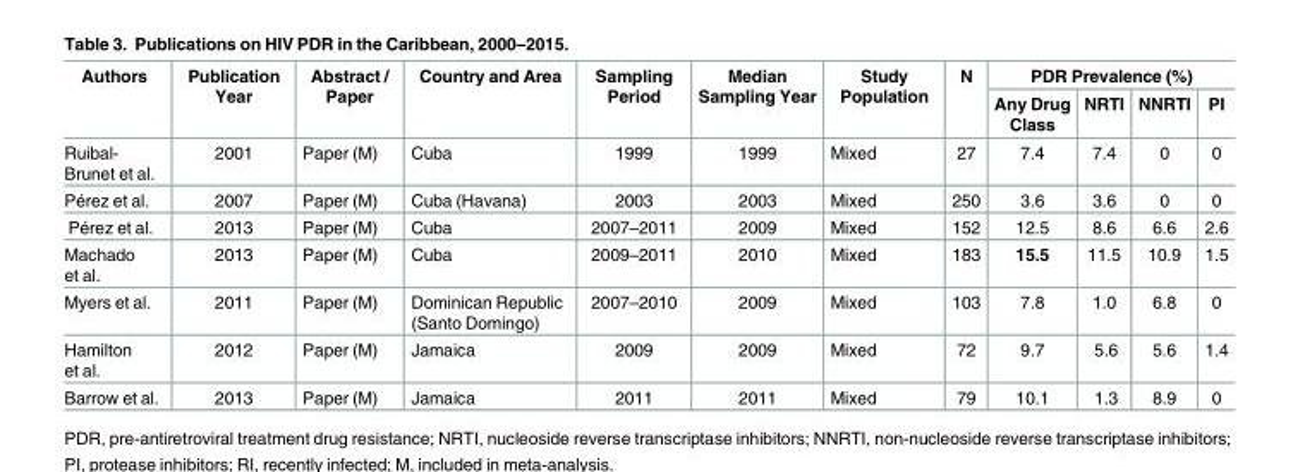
<table><thead><tr><td rowspan="2">Authors</td><td rowspan="2">Publication Year</td><td rowspan="2">Abstract / Paper</td><td rowspan="2">Country and Area</td><td rowspan="2">Sampling Period</td><td rowspan="2">Median Sampling Year</td><td rowspan="2">Study Population</td><td rowspan="2">N</td><td colspan="4">PDR Prevalence (%)</td></tr><tr><td>Any Drug Class</td><td>NRTI</td><td>NNRTI</td><td>PI</td></tr></thead><tbody><tr><td>Ruibal- Brunet et al.</td><td>2001</td><td>Paper (M)</td><td>Cuba</td><td>1999</td><td>1999</td><td>Mixed</td><td>27</td><td>7.4</td><td>7.4</td><td>0</td><td>0</td></tr><tr><td>Pérez et al.</td><td>2007</td><td>Paper (M)</td><td>Cuba (Havana)</td><td>2003</td><td>2003</td><td>Mixed</td><td>250</td><td>3.6</td><td>3.6</td><td>0</td><td>0</td></tr><tr><td>Pérez et al.</td><td>2013</td><td>Paper (M)</td><td>Cuba</td><td>2007–2011</td><td>2009</td><td>Mixed</td><td>152</td><td>12.5</td><td>8.6</td><td>6.6</td><td>2.6</td></tr><tr><td>Machado et al.</td><td>2013</td><td>Paper (M)</td><td>Cuba</td><td>2009–2011</td><td>2010</td><td>Mixed</td><td>183</td><td>15.5</td><td>11.5</td><td>10.9</td><td>1.5</td></tr><tr><td>Myers et al.</td><td>2011</td><td>Paper (M)</td><td>Dominican Republic (Santo Domingo)</td><td>2007–2010</td><td>2009</td><td>Mixed</td><td>103</td><td>7.8</td><td>1.0</td><td>6.8</td><td>0</td></tr><tr><td>Hamilton et al.</td><td>2012</td><td>Paper (M)</td><td>Jamaica</td><td>2009</td><td>2009</td><td>Mixed</td><td>72</td><td>9.7</td><td>5.6</td><td>5.6</td><td>1.4</td></tr><tr><td>Barrow et al.</td><td>2013</td><td>Paper (M)</td><td>Jamaica</td><td>2011</td><td>2011</td><td>Mixed</td><td>79</td><td>10.1</td><td>1.3</td><td>8.9</td><td>0</td></tr></tbody></table>